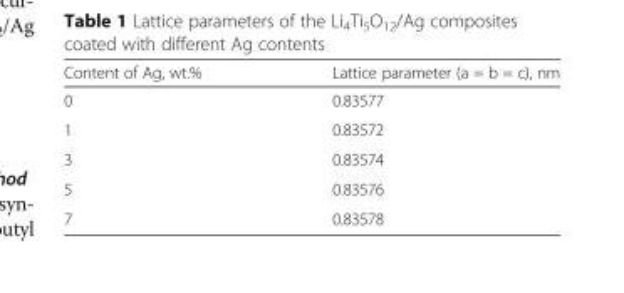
<table><thead><tr><td>Content of Ag, wt.%</td><td>Lattice parameter (a = b = c), nm</td></tr></thead><tbody><tr><td>0</td><td>0.83577</td></tr><tr><td>1</td><td>0.83572</td></tr><tr><td>3</td><td>0.83574</td></tr><tr><td>5</td><td>0.83576</td></tr><tr><td>7</td><td>0.83578</td></tr></tbody></table>